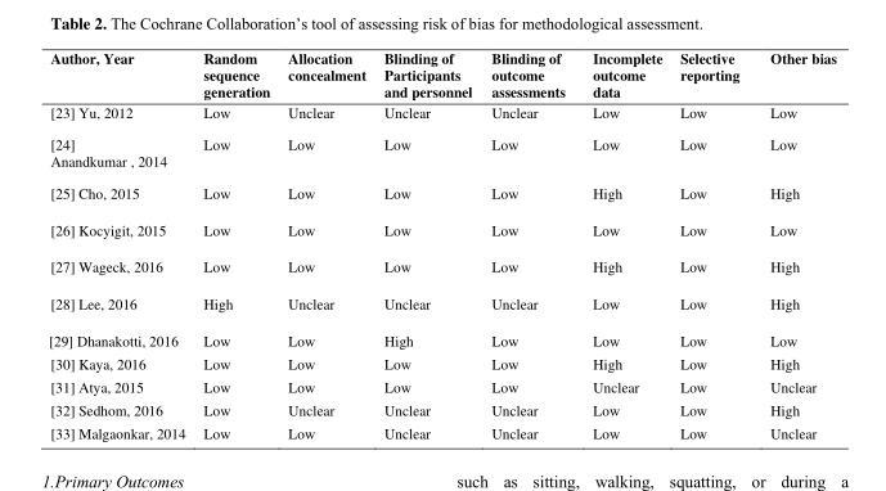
<table><thead><tr><td>Author, Year</td><td>Random sequence generation</td><td>Allocation concealment</td><td>Blinding of Participants and personnel</td><td>Blinding of outcome assessments</td><td>Incomplete outcome data</td><td>Selective reporting</td><td>Other bias</td></tr></thead><tbody><tr><td>[23] Yu, 2012</td><td>Low</td><td>Unclear</td><td>Unclear</td><td>Unclear</td><td>Low</td><td>Low</td><td>Low</td></tr><tr><td>[24] Anandkumar , 2014</td><td>Low</td><td>Low</td><td>Low</td><td>Low</td><td>Low</td><td>Low</td><td>Low</td></tr><tr><td>[25] Cho, 2015</td><td>Low</td><td>Low</td><td>Low</td><td>Low</td><td>High</td><td>Low</td><td>High</td></tr><tr><td>[26] Kocyigit, 2015</td><td>Low</td><td>Low</td><td>Low</td><td>Low</td><td>Low</td><td>Low</td><td>Low</td></tr><tr><td>[27] Wageck, 2016</td><td>Low</td><td>Low</td><td>Low</td><td>Low</td><td>High</td><td>Low</td><td>High</td></tr><tr><td>[28] Lee, 2016</td><td>High</td><td>Unclear</td><td>Unclear</td><td>Unclear</td><td>Low</td><td>Low</td><td>High</td></tr><tr><td>[29] Dhanakotti, 2016</td><td>Low</td><td>Low</td><td>High</td><td>Low</td><td>Low</td><td>Low</td><td>Low</td></tr><tr><td>[30] Kaya, 2016</td><td>Low</td><td>Low</td><td>Low</td><td>Low</td><td>High</td><td>Low</td><td>High</td></tr><tr><td>[31] Atya, 2015</td><td>Low</td><td>Low</td><td>Low</td><td>Low</td><td>Unclear</td><td>Low</td><td>Unclear</td></tr><tr><td>[32] Sedhom, 2016</td><td>Low</td><td>Unclear</td><td>Unclear</td><td>Unclear</td><td>Low</td><td>Low</td><td>High</td></tr><tr><td>[33] Malgaonkar, 2014</td><td>Low</td><td>Low</td><td>Unclear</td><td>Unclear</td><td>Low</td><td>Low</td><td>Unclear</td></tr></tbody></table>